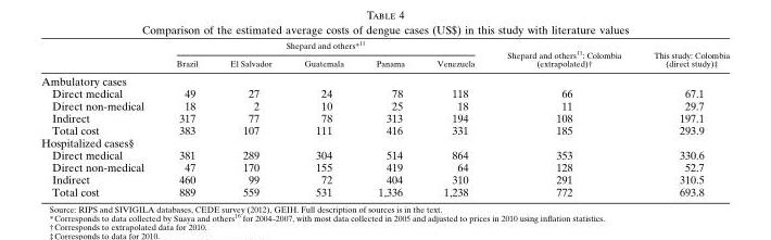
<table><thead><tr><td rowspan="2"></td><td colspan="5">Shepard and others*<sup>11</sup></td><td rowspan="2">Shepard and others<sup>11</sup>: Colombia (extrapolated)†</td><td rowspan="2">This study: Colombia (direct study)‡</td></tr><tr><td>Brazil</td><td>El Salvador</td><td>Guatemala</td><td>Panama</td><td>Venezuela</td></tr></thead><tbody><tr><td colspan="8">Ambulatory cases</td></tr><tr><td>Direct medical</td><td>49</td><td>27</td><td>24</td><td>78</td><td>118</td><td>66</td><td>67.1</td></tr><tr><td>Direct non-medical</td><td>18</td><td>2</td><td>10</td><td>25</td><td>18</td><td>11</td><td>29.7</td></tr><tr><td>Indirect</td><td>317</td><td>77</td><td>78</td><td>313</td><td>194</td><td>108</td><td>197.1</td></tr><tr><td>Total cost</td><td>383</td><td>107</td><td>111</td><td>416</td><td>331</td><td>185</td><td>293.9</td></tr><tr><td colspan="8">Hospitalized cases§</td></tr><tr><td>Direct medical</td><td>381</td><td>289</td><td>304</td><td>514</td><td>864</td><td>353</td><td>330.6</td></tr><tr><td>Direct non-medical</td><td>47</td><td>170</td><td>155</td><td>419</td><td>64</td><td>128</td><td>52.7</td></tr><tr><td>Indirect</td><td>460</td><td>99</td><td>72</td><td>404</td><td>310</td><td>291</td><td>310.5</td></tr><tr><td>Total cost</td><td>889</td><td>559</td><td>531</td><td>1,336</td><td>1,238</td><td>772</td><td>693.8</td></tr></tbody></table>